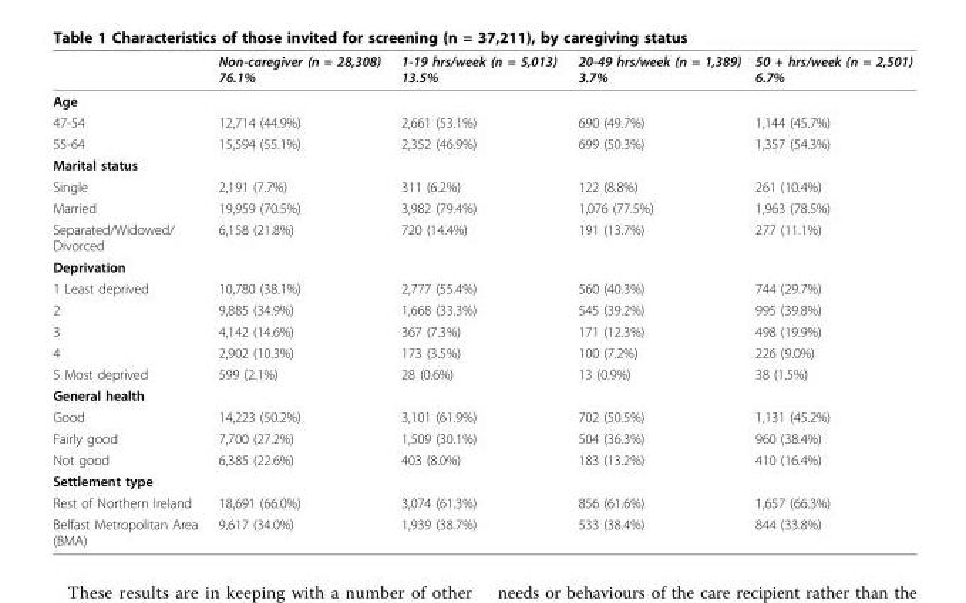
<table><thead><tr><td></td><td>Non-caregiver (n = 28,308) 76.1%</td><td>1-19 hrs/week (n = 5,013) 13.5%</td><td>20-49 hrs/week (n = 1,389) 3.7%</td><td>50 + hrs/week (n = 2,501) 6.7%</td></tr></thead><tbody><tr><td colspan="5">Age</td></tr><tr><td>47-54</td><td>12,714 (44.9%)</td><td>2,661 (53.1%)</td><td>690 (49.7%)</td><td>1,144 (45.7%)</td></tr><tr><td>55-64</td><td>15,594 (55.1%)</td><td>2,352 (46.9%)</td><td>699 (50.3%)</td><td>1,357 (54.3%)</td></tr><tr><td colspan="5">Marital status</td></tr><tr><td>Single</td><td>2,191 (7.7%)</td><td>311 (6.2%)</td><td>122 (8.8%)</td><td>261 (10.4%)</td></tr><tr><td>Married</td><td>19,959 (70.5%)</td><td>3,982 (79.4%)</td><td>1,076 (77.5%)</td><td>1,963 (78.5%)</td></tr><tr><td>Separated/Widowed/ Divorced</td><td>6,158 (21.8%)</td><td>720 (14.4%)</td><td>191 (13.7%)</td><td>277 (11.1%)</td></tr><tr><td colspan="5">Deprivation</td></tr><tr><td>1 Least deprived</td><td>10,780 (38.1%)</td><td>2,777 (55.4%)</td><td>560 (40.3%)</td><td>744 (29.7%)</td></tr><tr><td>2</td><td>9,885 (34.9%)</td><td>1,668 (33.3%)</td><td>545 (39.2%)</td><td>995 (39.8%)</td></tr><tr><td>3</td><td>4,142 (14.6%)</td><td>367 (7.3%)</td><td>171 (12.3%)</td><td>498 (19.9%)</td></tr><tr><td>4</td><td>2,902 (10.3%)</td><td>173 (3.5%)</td><td>100 (7.2%)</td><td>226 (9.0%)</td></tr><tr><td>5 Most deprived</td><td>599 (2.1%)</td><td>28 (0.6%)</td><td>13 (0.9%)</td><td>38 (1.5%)</td></tr><tr><td colspan="5">General health</td></tr><tr><td>Good</td><td>14,223 (50.2%)</td><td>3,101 (61.9%)</td><td>702 (50.5%)</td><td>1,131 (45.2%)</td></tr><tr><td>Fairly good</td><td>7,700 (27.2%)</td><td>1,509 (30.1%)</td><td>504 (36.3%)</td><td>960 (38.4%)</td></tr><tr><td>Not good</td><td>6,385 (22.6%)</td><td>403 (8.0%)</td><td>183 (13.2%)</td><td>410 (16.4%)</td></tr><tr><td colspan="5">Settlement type</td></tr><tr><td>Rest of Northern Ireland</td><td>18,691 (66.0%)</td><td>3,074 (61.3%)</td><td>856 (61.6%)</td><td>1,657 (66.3%)</td></tr><tr><td>Belfast Metropolitan Area (BMA)</td><td>9,617 (34.0%)</td><td>1,939 (38.7%)</td><td>533 (38.4%)</td><td>844 (33.8%)</td></tr></tbody></table>